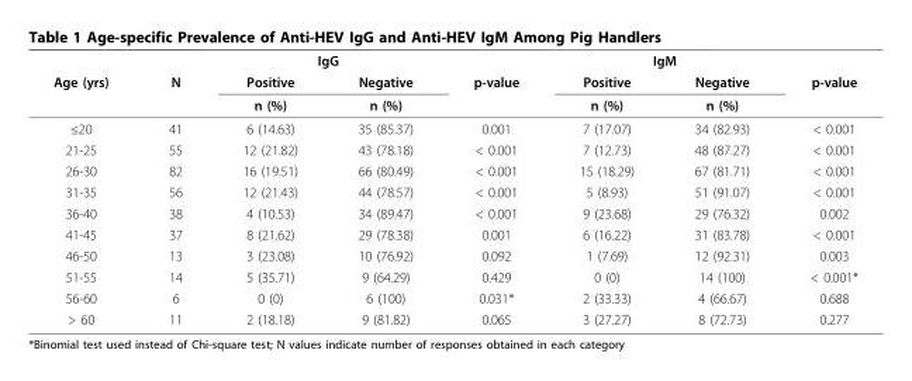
<table><thead><tr><td rowspan="3">Age (yrs)</td><td rowspan="3">N</td><td colspan="2">IgG</td><td rowspan="3">p-value</td><td colspan="2">IgM</td><td rowspan="3">p-value</td></tr><tr><td rowspan="2">Positive n (%)</td><td rowspan="2">Negative n (%)</td><td rowspan="2">Positive n (%)</td><td rowspan="2">Negative n (%)</td></tr><tr></tr></thead><tbody><tr><td>≤20</td><td>41</td><td>6 (14.63)</td><td>35 (85.37)</td><td>0.001</td><td>7 (17.07)</td><td>34 (82.93)</td><td>&lt; 0.001</td></tr><tr><td>21-25</td><td>55</td><td>12 (21.82)</td><td>43 (78.18)</td><td>&lt; 0.001</td><td>7 (12.73)</td><td>48 (87.27)</td><td>&lt; 0.001</td></tr><tr><td>26-30</td><td>82</td><td>16 (19.51)</td><td>66 (80.49)</td><td>&lt; 0.001</td><td>15 (18.29)</td><td>67 (81.71)</td><td>&lt; 0.001</td></tr><tr><td>31-35</td><td>56</td><td>12 (21.43)</td><td>44 (78.57)</td><td>&lt; 0.001</td><td>5 (8.93)</td><td>51 (91.07)</td><td>&lt; 0.001</td></tr><tr><td>36-40</td><td>38</td><td>4 (10.53)</td><td>34 (89.47)</td><td>&lt; 0.001</td><td>9 (23.68)</td><td>29 (76.32)</td><td>0.002</td></tr><tr><td>41-45</td><td>37</td><td>8 (21.62)</td><td>29 (78.38)</td><td>0.001</td><td>6 (16.22)</td><td>31 (83.78)</td><td>&lt; 0.001</td></tr><tr><td>46-50</td><td>13</td><td>3 (23.08)</td><td>10 (76.92)</td><td>0.092</td><td>1 (7.69)</td><td>12 (92.31)</td><td>0.003</td></tr><tr><td>51-55</td><td>14</td><td>5 (35.71)</td><td>9 (64.29)</td><td>0.429</td><td>0 (0)</td><td>14 (100)</td><td>&lt; 0.001*</td></tr><tr><td>56-60</td><td>6</td><td>0 (0)</td><td>6 (100)</td><td>0.031*</td><td>2 (33.33)</td><td>4 (66.67)</td><td>0.688</td></tr><tr><td>&gt; 60</td><td>11</td><td>2 (18.18)</td><td>9 (81.82)</td><td>0.065</td><td>3 (27.27)</td><td>8 (72.73)</td><td>0.277</td></tr></tbody></table>